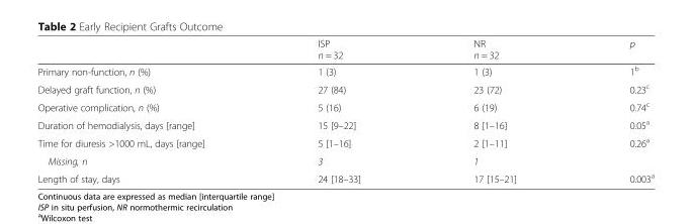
<table><thead><tr><td></td><td>ISP n = 32</td><td>NR n = 32</td><td>p</td></tr></thead><tbody><tr><td>Primary non-function, n (%)</td><td>1 (3)</td><td>1 (3)</td><td>1<sup>b</sup></td></tr><tr><td>Delayed graft function, n (%)</td><td>27 (84)</td><td>23 (72)</td><td>0.23<sup>c</sup></td></tr><tr><td>Operative complication, n (%)</td><td>5 (16)</td><td>6 (19)</td><td>0.74<sup>c</sup></td></tr><tr><td>Duration of hemodialysis, days [range]</td><td>15 [9–22]</td><td>8 [1–16]</td><td>0.05<sup>a</sup></td></tr><tr><td>Time for diuresis &gt;1000 mL, days [range]</td><td>5 [1–16]</td><td>2 [1–11]</td><td>0.26<sup>a</sup></td></tr><tr><td>Missing, n</td><td>3</td><td>1</td><td></td></tr><tr><td>Length of stay, days</td><td>24 [18–33]</td><td>17 [15–21]</td><td>0.003<sup>a</sup></td></tr></tbody></table>